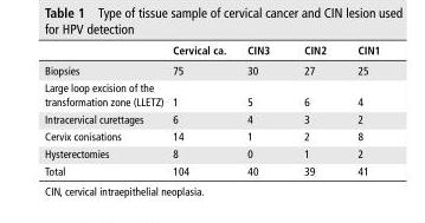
<table><thead><tr><td></td><td>Cervical ca.</td><td>CIn3</td><td>CIn2</td><td>CIn1</td></tr></thead><tbody><tr><td>Biopsies</td><td>75</td><td>30</td><td>27</td><td>25</td></tr><tr><td>Large loop excision of the transformation zone (LLETZ)</td><td>1</td><td>5</td><td>6</td><td>4</td></tr><tr><td>Intracervical curettages</td><td>6</td><td>4</td><td>3</td><td>2</td></tr><tr><td>Cervix conisations</td><td>14</td><td>1</td><td>2</td><td>8</td></tr><tr><td>Hysterectomies</td><td>8</td><td>0</td><td>1</td><td>2</td></tr><tr><td>Total</td><td>104</td><td>40</td><td>39</td><td>41</td></tr></tbody></table>